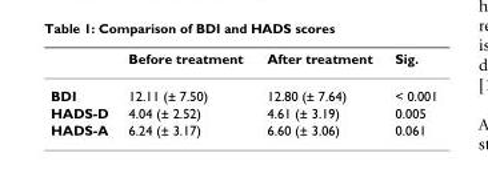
<table><thead><tr><td></td><td>Before treatment</td><td>After treatment</td><td>Sig.</td></tr></thead><tbody><tr><td>BDI</td><td>12.11 (± 7.50)</td><td>12.80 (± 7.64)</td><td>&lt; 0.001</td></tr><tr><td>HADS-D</td><td>4.04 (± 2.52)</td><td>4.61 (± 3.19)</td><td>0.005</td></tr><tr><td>HADS-A</td><td>6.24 (± 3.17)</td><td>6.60 (± 3.06)</td><td>0.061</td></tr></tbody></table>